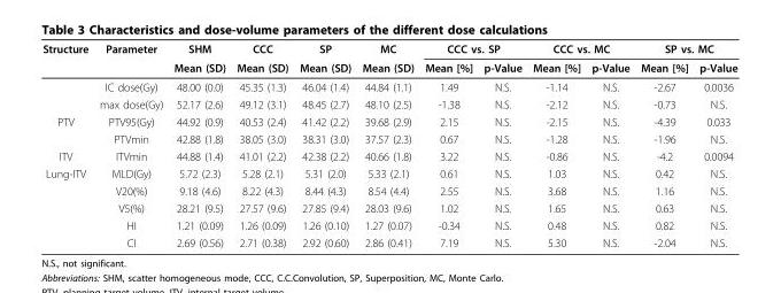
<table><thead><tr><td rowspan="2">Structure</td><td rowspan="2">Parameter</td><td rowspan="2">SHM Mean (SD)</td><td rowspan="2">CCC Mean (SD)</td><td rowspan="2">SP Mean (SD)</td><td rowspan="2">MC Mean (SD)</td><td colspan="2">CCC vs. SP</td><td colspan="2">CCC vs. MC</td><td colspan="2">SP vs. MC</td></tr><tr><td>Mean [%]</td><td>p-Value</td><td>Mean [%]</td><td>p-Value</td><td>Mean [%]</td><td>p-Value</td></tr></thead><tbody><tr><td></td><td>IC dose(Gy)</td><td>48.00 (0.0)</td><td>45.35 (1.3)</td><td>46.04 (1.4)</td><td>44.84 (1.1)</td><td>1.49</td><td>N.S.</td><td>-1.14</td><td>N.S.</td><td>-2.67</td><td>0.0036</td></tr><tr><td></td><td>max dose(Gy)</td><td>52.17 (2.6)</td><td>49.12 (3.1)</td><td>48.45 (2.7)</td><td>48.10 (2.5)</td><td>-1.38</td><td>N.S.</td><td>-2.12</td><td>N.S.</td><td>-0.73</td><td>N.S.</td></tr><tr><td rowspan="2">PTV</td><td>PTV95(Gy)</td><td>44.92 (0.9)</td><td>40.53 (2.4)</td><td>41.42 (2.2)</td><td>39.68 (2.9)</td><td>2.15</td><td>N.S.</td><td>-2.15</td><td>N.S.</td><td>-4.39</td><td>0.033</td></tr><tr><td>PTVmin</td><td>42.88 (1.8)</td><td>38.05 (3.0)</td><td>38.31 (3.0)</td><td>37.57 (2.3)</td><td>0.67</td><td>N.S.</td><td>-1.28</td><td>N.S.</td><td>-1.96</td><td>N.S.</td></tr><tr><td>ITV</td><td>ITVmin</td><td>44.88 (1.4)</td><td>41.01 (2.2)</td><td>42.38 (2.2)</td><td>40.66 (1.8)</td><td>3.22</td><td>N.S.</td><td>-0.86</td><td>N.S.</td><td>-4.2</td><td>0.0094</td></tr><tr><td rowspan="5">Lung-ITV</td><td>MLD(Gy)</td><td>5.72 (2.3)</td><td>5.28 (2.1)</td><td>5.31 (2.0)</td><td>5.33 (2.1)</td><td>0.61</td><td>N.S.</td><td>1.03</td><td>N.S.</td><td>0.42</td><td>N.S.</td></tr><tr><td>V20(%)</td><td>9.18 (4.6)</td><td>8.22 (4.3)</td><td>8.44 (4.3)</td><td>8.54 (4.4)</td><td>2.55</td><td>N.S.</td><td>3.68</td><td>N.S.</td><td>1.16</td><td>N.S.</td></tr><tr><td>V5(%)</td><td>28.21 (9.5)</td><td>27.57 (9.6)</td><td>27.85 (9.4)</td><td>28.03 (9.6)</td><td>1.02</td><td>N.S.</td><td>1.65</td><td>N.S.</td><td>0.63</td><td>N.S.</td></tr><tr><td>HI</td><td>1.21 (0.09)</td><td>1.26 (0.09)</td><td>1.26 (0.10)</td><td>1.27 (0.07)</td><td>-0.34</td><td>N.S.</td><td>0.48</td><td>N.S.</td><td>0.82</td><td>N.S.</td></tr><tr><td>CI</td><td>2.69 (0.56)</td><td>2.71 (0.38)</td><td>2.92 (0.60)</td><td>2.86 (0.41)</td><td>7.19</td><td>N.S.</td><td>5.30</td><td>N.S.</td><td>-2.04</td><td>N.S.</td></tr></tbody></table>